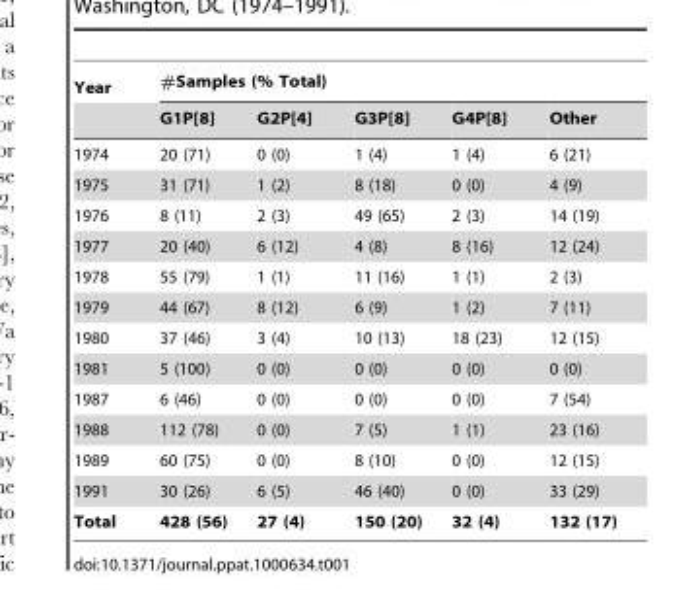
<table><thead><tr><td rowspan="2">Year</td><td colspan="5">#Samples (% Total)</td></tr><tr><td>G1P[8]</td><td>G2P[4]</td><td>G3P[8]</td><td>G4P[8]</td><td>Other</td></tr></thead><tbody><tr><td>1974</td><td>20 (71)</td><td>0 (0)</td><td>1 (4)</td><td>1 (4)</td><td>6 (21)</td></tr><tr><td>1975</td><td>31 (71)</td><td>1 (2)</td><td>8 (18)</td><td>0 (0)</td><td>4 (9)</td></tr><tr><td>1976</td><td>8 (11)</td><td>2 (3)</td><td>49 (65)</td><td>2 (3)</td><td>14 (19)</td></tr><tr><td>1977</td><td>20 (40)</td><td>6 (12)</td><td>4 (8)</td><td>8 (16)</td><td>12 (24)</td></tr><tr><td>1978</td><td>55 (79)</td><td>1 (1)</td><td>11 (16)</td><td>1 (1)</td><td>2 (3)</td></tr><tr><td>1979</td><td>44 (67)</td><td>8 (12)</td><td>6 (9)</td><td>1 (2)</td><td>7 (11)</td></tr><tr><td>1980</td><td>37 (46)</td><td>3 (4)</td><td>10 (13)</td><td>18 (23)</td><td>12 (15)</td></tr><tr><td>1981</td><td>5 (100)</td><td>0 (0)</td><td>0 (0)</td><td>0 (0)</td><td>0 (0)</td></tr><tr><td>1987</td><td>6 (46)</td><td>0 (0)</td><td>0 (0)</td><td>0 (0)</td><td>7 (54)</td></tr><tr><td>1988</td><td>112 (78)</td><td>0 (0)</td><td>7 (5)</td><td>1 (1)</td><td>23 (16)</td></tr><tr><td>1989</td><td>60 (75)</td><td>0 (0)</td><td>8 (10)</td><td>0 (0)</td><td>12 (15)</td></tr><tr><td>1991</td><td>30 (26)</td><td>6 (5)</td><td>46 (40)</td><td>0 (0)</td><td>33 (29)</td></tr><tr><td>Total</td><td>428 (56)</td><td>27 (4)</td><td>150 (20)</td><td>32 (4)</td><td>132 (17)</td></tr></tbody></table>